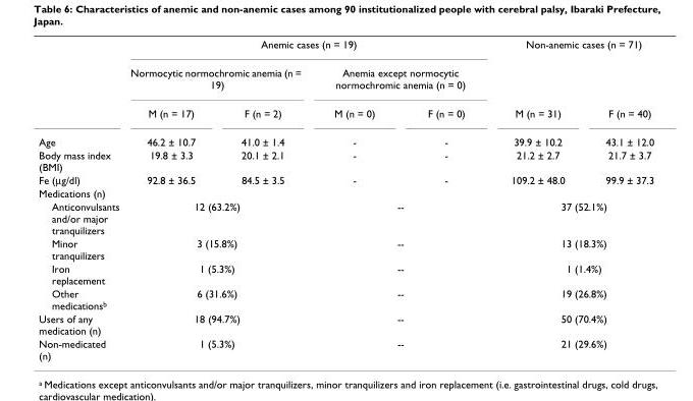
<table><thead><tr><td rowspan="3"></td><td colspan="4">Anemic cases (n = 19)</td><td colspan="2">Non-anemic cases (n = 71)</td></tr><tr><td colspan="2">Normocytic normochromic anemia (n = 19)</td><td colspan="2">Anemia except normocytic normochromic anemia (n = 0)</td><td rowspan="2">M (n = 31)</td><td rowspan="2">F (n = 40)</td></tr><tr><td>M (n = 17)</td><td>F (n = 2)</td><td>M (n = 0)</td><td>F (n = 0)</td></tr></thead><tbody><tr><td>Age</td><td>46.2 ± 10.7</td><td>41.0 ± 1.4</td><td>-</td><td>-</td><td>39.9 ± 10.2</td><td>43.1 ± 12.0</td></tr><tr><td>Body mass index (BMI)</td><td>19.8 ± 3.3</td><td>20.1 ± 2.1</td><td>-</td><td>-</td><td>21.2 ± 2.7</td><td>21.7 ± 3.7</td></tr><tr><td>Fe (μg/dl)</td><td>92.8 ± 36.5</td><td>84.5 ± 3.5</td><td>-</td><td>-</td><td>109.2 ± 48.0</td><td>99.9 ± 37.3</td></tr><tr><td colspan="7">Medications (n)</td></tr><tr><td>Anticonvulsants and/or major tranquilizers</td><td colspan="2">12 (63.2%)</td><td colspan="2">--</td><td colspan="2">37 (52.1%)</td></tr><tr><td>Minor tranquilizers</td><td colspan="2">3 (15.8%)</td><td colspan="2">--</td><td colspan="2">13 (18.3%)</td></tr><tr><td>Iron replacement</td><td colspan="2">1 (5.3%)</td><td colspan="2">--</td><td colspan="2">1 (1.4%)</td></tr><tr><td>Other medicationsb</td><td colspan="2">6 (31.6%)</td><td colspan="2">--</td><td colspan="2">19 (26.8%)</td></tr><tr><td>Users of any medication (n)</td><td colspan="2">18 (94.7%)</td><td colspan="2">--</td><td colspan="2">50 (70.4%)</td></tr><tr><td>Non-medicated (n)</td><td colspan="2">1 (5.3%)</td><td colspan="2">--</td><td colspan="2">21 (29.6%)</td></tr></tbody></table>